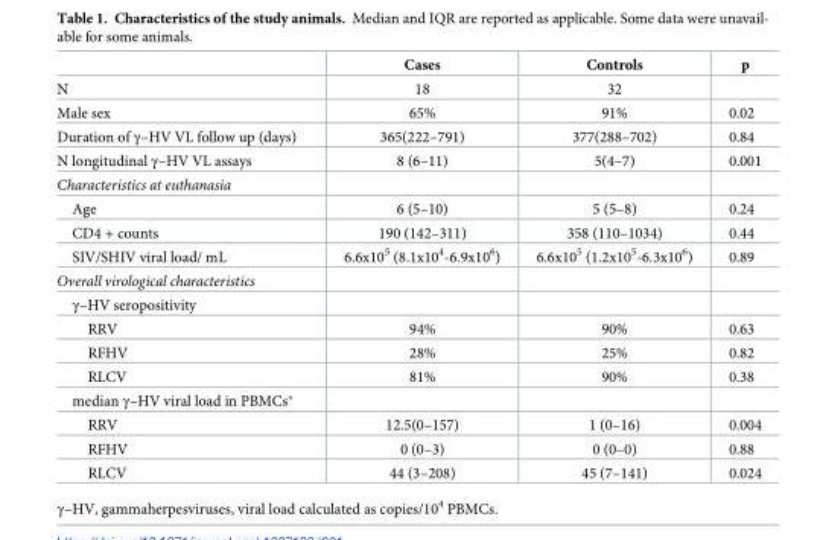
<table><thead><tr><td></td><td>Cases</td><td>Controls</td><td>p</td></tr></thead><tbody><tr><td>N</td><td>18</td><td>32</td><td></td></tr><tr><td>Male sex</td><td>65%</td><td>91%</td><td>0.02</td></tr><tr><td>Duration of γ–HV VL follow up (days)</td><td>365(222–791)</td><td>377(288–702)</td><td>0.84</td></tr><tr><td>N longitudinal γ–HV VL assays</td><td>8 (6–11)</td><td>5(4–7)</td><td>0.001</td></tr><tr><td colspan="4">Characteristics at euthanasia</td></tr><tr><td>Age</td><td>6 (5–10)</td><td>5 (5–8)</td><td>0.24</td></tr><tr><td>CD4 + counts</td><td>190 (142–311)</td><td>358 (110–1034)</td><td>0.44</td></tr><tr><td>SIV/SHIV viral load/ mL</td><td>6.6x10<sup>5</sup> (8.1x10<sup>4</sup>-6.9x10<sup>6</sup>)</td><td>6.6x10<sup>5</sup> (1.2x10<sup>5</sup>-6.3x10<sup>6</sup>)</td><td>0.89</td></tr><tr><td colspan="4">Overall virological characteristics</td></tr><tr><td colspan="4">γ–HV seropositivity</td></tr><tr><td>RRV</td><td>94%</td><td>90%</td><td>0.63</td></tr><tr><td>RFHV</td><td>28%</td><td>25%</td><td>0.82</td></tr><tr><td>RLCV</td><td>81%</td><td>90%</td><td>0.38</td></tr><tr><td colspan="4">median γ–HV viral load in PBMCs*</td></tr><tr><td>RRV</td><td>12.5(0–157)</td><td>1 (0–16)</td><td>0.004</td></tr><tr><td>RFHV</td><td>0 (0–3)</td><td>0 (0–0)</td><td>0.88</td></tr><tr><td>RLCV</td><td>44 (3–208)</td><td>45 (7–141)</td><td>0.024</td></tr></tbody></table>